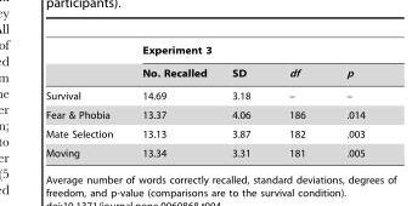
<table><thead><tr><td rowspan="2"></td><td colspan="4">Experiment 3</td></tr><tr><td>No. Recalled</td><td>SD</td><td>df</td><td>p</td></tr></thead><tbody><tr><td>Survival</td><td>14.69</td><td>3.18</td><td>–</td><td>–</td></tr><tr><td>Fear &amp; Phobia</td><td>13.37</td><td>4.06</td><td>186</td><td>.014</td></tr><tr><td>Mate Selection</td><td>13.13</td><td>3.87</td><td>182</td><td>.003</td></tr><tr><td>Moving</td><td>13.34</td><td>3.31</td><td>181</td><td>.005</td></tr></tbody></table>